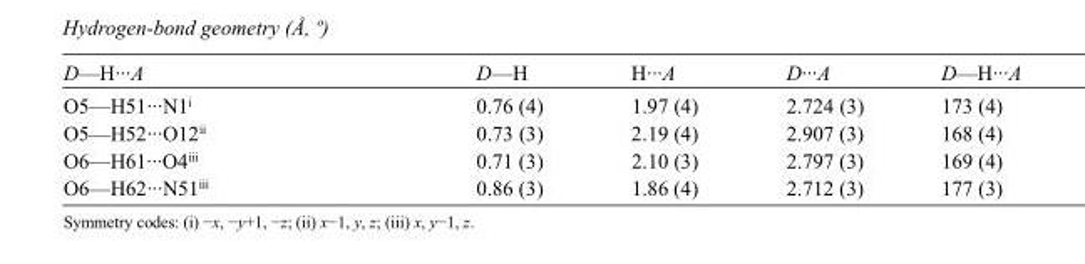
<table><tbody><tr><td>D—H···A</td><td>D—H</td><td>H···A</td><td>D···A</td><td>D—H···A</td></tr><tr><td>O5—H51···N1<sup>i</sup></td><td>0.76 (4)</td><td>1.97 (4)</td><td>2.724 (3)</td><td>173 (4)</td></tr><tr><td>O5—H52···O12<sup>ii</sup></td><td>0.73 (3)</td><td>2.19 (4)</td><td>2.907 (3)</td><td>168 (4)</td></tr><tr><td>O6—H61···O4<sup>iii</sup></td><td>0.71 (3)</td><td>2.10 (3)</td><td>2.797 (3)</td><td>169 (4)</td></tr><tr><td>O6—H62···N51<sup>iii</sup></td><td>0.86 (3)</td><td>1.86 (4)</td><td>2.712 (3)</td><td>177 (3)</td></tr></tbody></table>